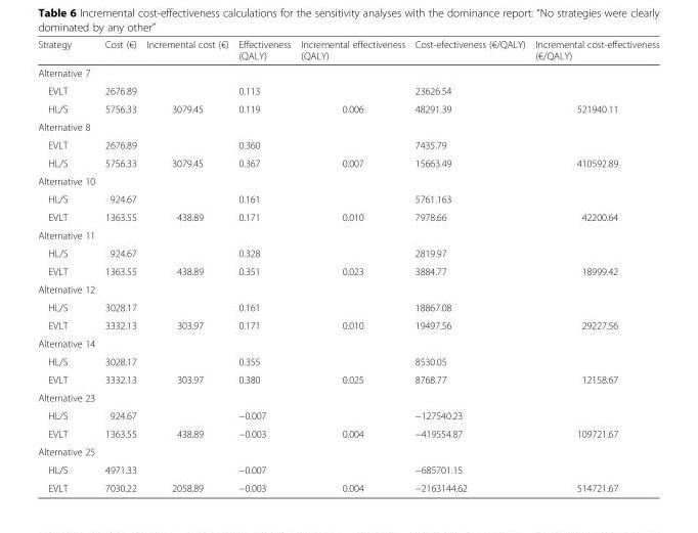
<table><thead><tr><td>Strategy</td><td>Cost (€)</td><td>Incremental cost (€)</td><td>Effectiveness (QALY)</td><td>Incremental effectiveness (QALY)</td><td>Cost-efectiveness (€/QALY)</td><td>Incremental cost-effectiveness (€/QALY)</td></tr></thead><tbody><tr><td colspan="7">Alternative 7</td></tr><tr><td>EVLT</td><td>2676.89</td><td></td><td>0.113</td><td></td><td>23626.54</td><td></td></tr><tr><td>HL/S</td><td>5756.33</td><td>3079.45</td><td>0.119</td><td>0.006</td><td>48291.39</td><td>521940.11</td></tr><tr><td colspan="7">Alternative 8</td></tr><tr><td>EVLT</td><td>2676.89</td><td></td><td>0.360</td><td></td><td>7435.79</td><td></td></tr><tr><td>HL/S</td><td>5756.33</td><td>3079.45</td><td>0.367</td><td>0.007</td><td>15663.49</td><td>410592.89</td></tr><tr><td colspan="7">Alternative 10</td></tr><tr><td>HL/S</td><td>924.67</td><td></td><td>0.161</td><td></td><td>5761.163</td><td></td></tr><tr><td>EVLT</td><td>1363.55</td><td>438.89</td><td>0.171</td><td>0.010</td><td>7978.66</td><td>42200.64</td></tr><tr><td colspan="7">Alternative 11</td></tr><tr><td>HL/S</td><td>924.67</td><td></td><td>0.328</td><td></td><td>2819.97</td><td></td></tr><tr><td>EVLT</td><td>1363.55</td><td>438.89</td><td>0.351</td><td>0.023</td><td>3884.77</td><td>18999.42</td></tr><tr><td colspan="7">Alternative 12</td></tr><tr><td>HL/S</td><td>3028.17</td><td></td><td>0.161</td><td></td><td>18867.08</td><td></td></tr><tr><td>EVLT</td><td>3332.13</td><td>303.97</td><td>0.171</td><td>0.010</td><td>19497.56</td><td>29227.56</td></tr><tr><td colspan="7">Alternative 14</td></tr><tr><td>HL/S</td><td>3028.17</td><td></td><td>0.355</td><td></td><td>8530.05</td><td></td></tr><tr><td>EVLT</td><td>3332.13</td><td>303.97</td><td>0.380</td><td>0.025</td><td>8768.77</td><td>12158.67</td></tr><tr><td colspan="7">Alternative 23</td></tr><tr><td>HL/S</td><td>924.67</td><td></td><td>−0.007</td><td></td><td>−127540.23</td><td></td></tr><tr><td>EVLT</td><td>1363.55</td><td>438.89</td><td>−0.003</td><td>0.004</td><td>−419554.87</td><td>109721.67</td></tr><tr><td colspan="7">Alternative 25</td></tr><tr><td>HL/S</td><td>4971.33</td><td></td><td>−0.007</td><td></td><td>−685701.15</td><td></td></tr><tr><td>EVLT</td><td>7030.22</td><td>2058.89</td><td>−0.003</td><td>0.004</td><td>−2163144.62</td><td>514721.67</td></tr></tbody></table>